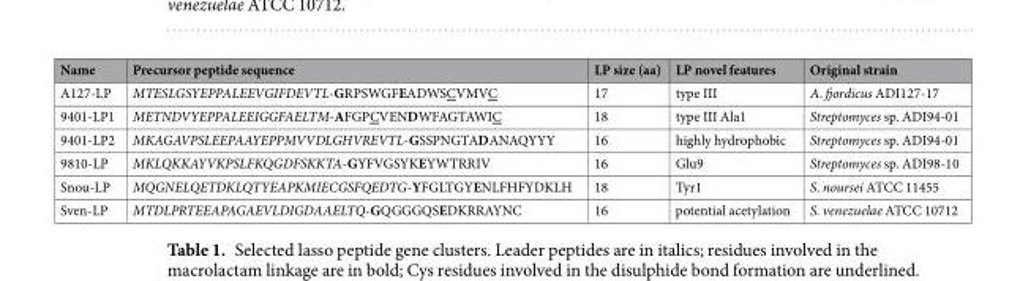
<table><thead><tr><td>Name</td><td>Precursor peptide sequence</td><td>LP size (aa)</td><td>LP novel features</td><td>Original strain</td></tr></thead><tbody><tr><td>A127-LP</td><td>MTESLGSYEPPALEEVGIFDEVTL-GRPSWGFEADWSCVMVC</td><td>17</td><td>type III</td><td>A. fjordicus ADI127-17</td></tr><tr><td>9401-LP1</td><td>METNDVYEPPALEEIGGFAELTM-AFGPCVENDWFAGTAWIC</td><td>18</td><td>type III Ala1</td><td>Streptomyces sp. ADI94-01</td></tr><tr><td>9401-LP2</td><td>MKAGAVPSLEEPAAYEPPMVVDLGHVREVTL-GSSPNGTADANAQYYY</td><td>16</td><td>highly hydrophobic</td><td>Streptomyces sp. ADI94-01</td></tr><tr><td>9810-LP</td><td>MKLQKKAYVKPSLFKQGDFSKKTA-GYFVGSYKEYWTRRIV</td><td>16</td><td>Glu9</td><td>Streptomyces sp. ADI98-10</td></tr><tr><td>Snou-LP</td><td>MQGNELQETDKLQTYEAPKMIECGSFQEDTG-YFGLTGYENLFHFYDKLH</td><td>18</td><td>Tyr1</td><td>S. noursei ATCC 11455</td></tr><tr><td>Sven-LP</td><td>MTDLPRTEEAPAGAEVLDIGDAAELTQ-GQGGGQSEDKRRAYNC</td><td>16</td><td>potential acetylation</td><td>S. venezuelae ATCC 10712</td></tr></tbody></table>